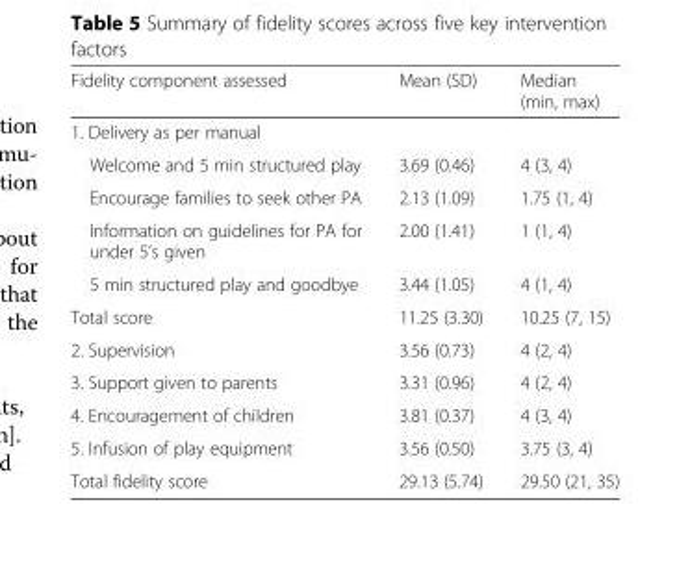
<table><thead><tr><td>Fidelity component assessed</td><td>Mean (SD)</td><td>Median (min, max)</td></tr></thead><tbody><tr><td colspan="3">1. Delivery as per manual</td></tr><tr><td>Welcome and 5 min structured play</td><td>3.69 (0.46)</td><td>4 (3, 4)</td></tr><tr><td>Encourage families to seek other PA</td><td>2.13 (1.09)</td><td>1.75 (1, 4)</td></tr><tr><td>Information on guidelines for PA for under 5’s given</td><td>2.00 (1.41)</td><td>1 (1, 4)</td></tr><tr><td>5 min structured play and goodbye</td><td>3.44 (1.05)</td><td>4 (1, 4)</td></tr><tr><td>Total score</td><td>11.25 (3.30)</td><td>10.25 (7, 15)</td></tr><tr><td>2. Supervision</td><td>3.56 (0.73)</td><td>4 (2, 4)</td></tr><tr><td>3. Support given to parents</td><td>3.31 (0.96)</td><td>4 (2, 4)</td></tr><tr><td>4. Encouragement of children</td><td>3.81 (0.37)</td><td>4 (3, 4)</td></tr><tr><td>5. Infusion of play equipment</td><td>3.56 (0.50)</td><td>3.75 (3, 4)</td></tr><tr><td>Total fidelity score</td><td>29.13 (5.74)</td><td>29.50 (21, 35)</td></tr></tbody></table>